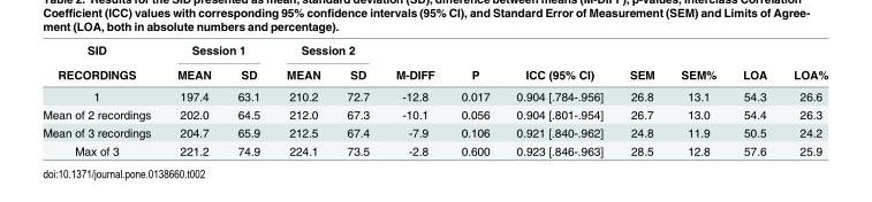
<table><thead><tr><td rowspan="2">SID RECORDINGS</td><td colspan="2">Session 1</td><td colspan="2">Session 2</td><td rowspan="2">M-DIFF</td><td rowspan="2">P</td><td rowspan="2">ICC (95% CI)</td><td rowspan="2">SEM</td><td rowspan="2">SEM%</td><td rowspan="2">LOA</td><td rowspan="2">LOA%</td></tr><tr><td>MEAN</td><td>SD</td><td>MEAN</td><td>SD</td></tr></thead><tbody><tr><td>1</td><td>197.4</td><td>63.1</td><td>210.2</td><td>72.7</td><td>-12.8</td><td>0.017</td><td>0.904 [.784-.956]</td><td>26.8</td><td>13.1</td><td>54.3</td><td>26.6</td></tr><tr><td>Mean of 2 recordings</td><td>202.0</td><td>64.5</td><td>212.0</td><td>67.3</td><td>-10.1</td><td>0.056</td><td>0.904 [.801-.954]</td><td>26.7</td><td>13.0</td><td>54.4</td><td>26.3</td></tr><tr><td>Mean of 3 recordings</td><td>204.7</td><td>65.9</td><td>212.5</td><td>67.4</td><td>-7.9</td><td>0.106</td><td>0.921 [.840-.962]</td><td>24.8</td><td>11.9</td><td>50.5</td><td>24.2</td></tr><tr><td>Max of 3</td><td>221.2</td><td>74.9</td><td>224.1</td><td>73.5</td><td>-2.8</td><td>0.600</td><td>0.923 [.846-.963]</td><td>28.5</td><td>12.8</td><td>57.6</td><td>25.9</td></tr></tbody></table>